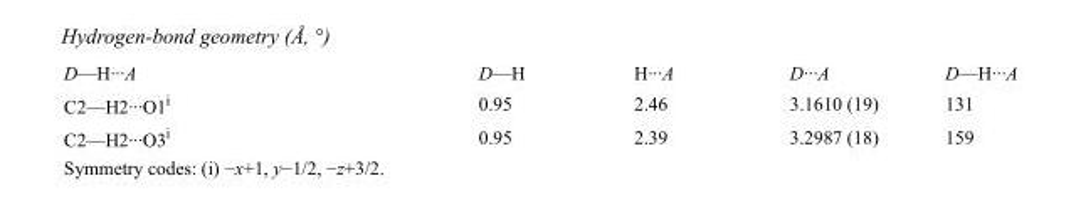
<table><tbody><tr><td>D—H···A</td><td>D—H</td><td>H···A</td><td>D···A</td><td>D—H···A</td></tr><tr><td>C2—H2···O1<sup>i</sup></td><td>0.95</td><td>2.46</td><td>3.1610 (19)</td><td>131</td></tr><tr><td>C2—H2···O3<sup>i</sup></td><td>0.95</td><td>2.39</td><td>3.2987 (18)</td><td>159</td></tr></tbody></table>